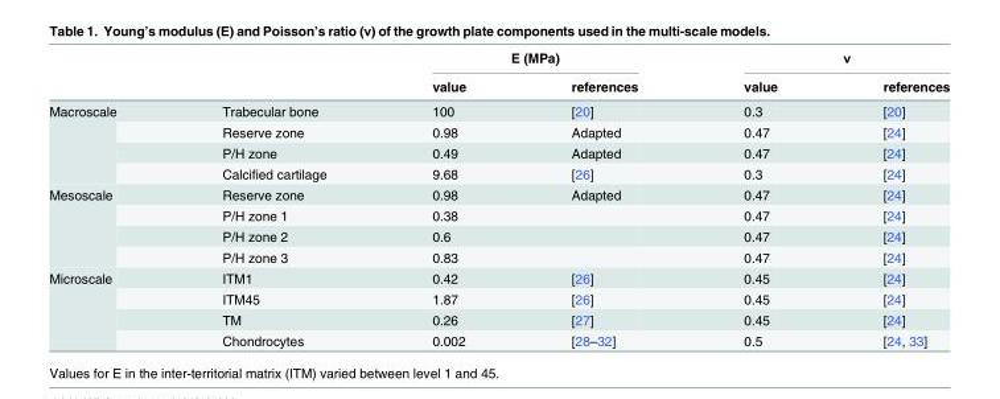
<table><thead><tr><td rowspan="2"></td><td rowspan="2"></td><td colspan="2">E (MPa)</td><td colspan="2">ν</td></tr><tr><td>value</td><td>references</td><td>value</td><td>references</td></tr></thead><tbody><tr><td rowspan="4">Macroscale</td><td>Trabecular bone</td><td>100</td><td>[20]</td><td>0.3</td><td>[20]</td></tr><tr><td>Reserve zone</td><td>0.98</td><td>Adapted</td><td>0.47</td><td>[24]</td></tr><tr><td>P/H zone</td><td>0.49</td><td>Adapted</td><td>0.47</td><td>[24]</td></tr><tr><td>Calcified cartilage</td><td>9.68</td><td>[26]</td><td>0.3</td><td>[24]</td></tr><tr><td rowspan="4">Mesoscale</td><td>Reserve zone</td><td>0.98</td><td>Adapted</td><td>0.47</td><td>[24]</td></tr><tr><td>P/H zone 1</td><td>0.38</td><td></td><td>0.47</td><td>[24]</td></tr><tr><td>P/H zone 2</td><td>0.6</td><td></td><td>0.47</td><td>[24]</td></tr><tr><td>P/H zone 3</td><td>0.83</td><td></td><td>0.47</td><td>[24]</td></tr><tr><td rowspan="4">Microscale</td><td>ITM1</td><td>0.42</td><td>[26]</td><td>0.45</td><td>[24]</td></tr><tr><td>ITM45</td><td>1.87</td><td>[26]</td><td>0.45</td><td>[24]</td></tr><tr><td>TM</td><td>0.26</td><td>[27]</td><td>0.45</td><td>[24]</td></tr><tr><td>Chondrocytes</td><td>0.002</td><td>[28–32]</td><td>0.5</td><td>[24, 33]</td></tr></tbody></table>